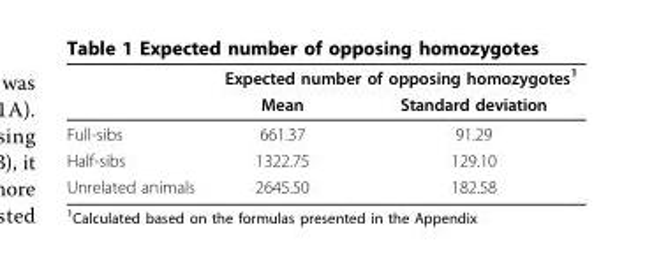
<table><thead><tr><td rowspan="2"></td><td colspan="2">Expected number of opposing homozygotes<sup>1</sup></td></tr><tr><td>Mean</td><td>Standard deviation</td></tr></thead><tbody><tr><td>Full-sibs</td><td>661.37</td><td>91.29</td></tr><tr><td>Half-sibs</td><td>1322.75</td><td>129.10</td></tr><tr><td>Unrelated animals</td><td>2645.50</td><td>182.58</td></tr></tbody></table>